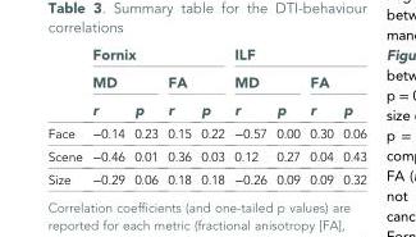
<table><thead><tr><td rowspan="3"></td><td colspan="4">Fornix</td><td colspan="4">ILF</td></tr><tr><td colspan="2">MD</td><td colspan="2">FA</td><td colspan="2">MD</td><td colspan="2">FA</td></tr><tr><td>r</td><td>p</td><td>r</td><td>p</td><td>r</td><td>p</td><td>r</td><td>p</td></tr></thead><tbody><tr><td>Face</td><td>−0.14</td><td>0.23</td><td>0.15</td><td>0.22</td><td>−0.57</td><td>0.00</td><td>0.30</td><td>0.06</td></tr><tr><td>Scene</td><td>−0.46</td><td>0.01</td><td>0.36</td><td>0.03</td><td>0.12</td><td>0.27</td><td>0.04</td><td>0.43</td></tr><tr><td>Size</td><td>−0.29</td><td>0.06</td><td>0.18</td><td>0.18</td><td>−0.26</td><td>0.09</td><td>0.09</td><td>0.32</td></tr></tbody></table>